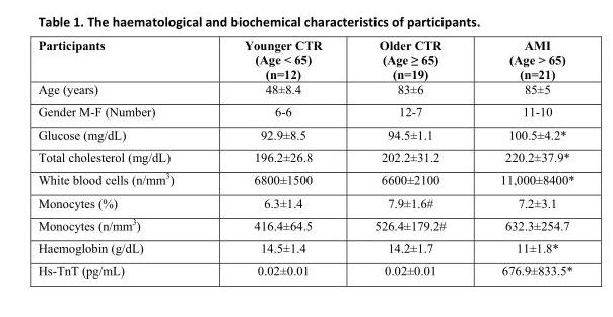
<table><tbody><tr><td>Participants</td><td>Younger CTR (Age &lt; 65) (n=12)</td><td>Older CTR (Age ≥ 65) (n=19)</td><td>AMI (Age &gt; 65) (n=21)</td></tr><tr><td>Age (years)</td><td>48±8.4</td><td>83±6</td><td>85±5</td></tr><tr><td>Gender M-F (Number)</td><td>6-6</td><td>12-7</td><td>11-10</td></tr><tr><td>Glucose (mg/dL)</td><td>92.9±8.5</td><td>94.5±1.1</td><td>100.5±4.2*</td></tr><tr><td>Total cholesterol (mg/dL)</td><td>196.2±26.8</td><td>202.2±31.2</td><td>220.2±37.9*</td></tr><tr><td>White blood cells (n/mm<sup>3</sup>)</td><td>6800±1500</td><td>6600±2100</td><td>11,000±8400*</td></tr><tr><td>Monocytes (%)</td><td>6.3±1.4</td><td>7.9±1.6#</td><td>7.2±3.1</td></tr><tr><td>Monocytes (n/mm<sup>3</sup>)</td><td>416.4±64.5</td><td>526.4±179.2#</td><td>632.3±254.7</td></tr><tr><td>Haemoglobin (g/dL)</td><td>14.5±1.4</td><td>14.2±1.7</td><td>11±1.8*</td></tr><tr><td>Hs-TnT (pg/mL)</td><td>0.02±0.01</td><td>0.02±0.01</td><td>676.9±833.5*</td></tr></tbody></table>